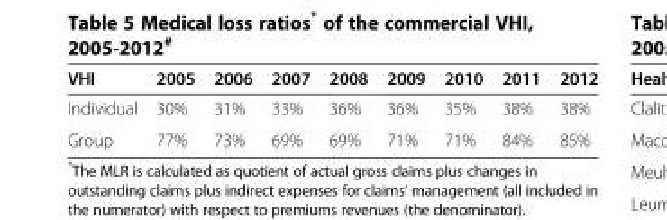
<table><thead><tr><td>VHI</td><td>2005</td><td>2006</td><td>2007</td><td>2008</td><td>2009</td><td>2010</td><td>2011</td><td>2012</td></tr></thead><tbody><tr><td>Individual</td><td>30%</td><td>31%</td><td>33%</td><td>36%</td><td>36%</td><td>35%</td><td>38%</td><td>38%</td></tr><tr><td>Group</td><td>77%</td><td>73%</td><td>69%</td><td>69%</td><td>71%</td><td>71%</td><td>84%</td><td>85%</td></tr></tbody></table>